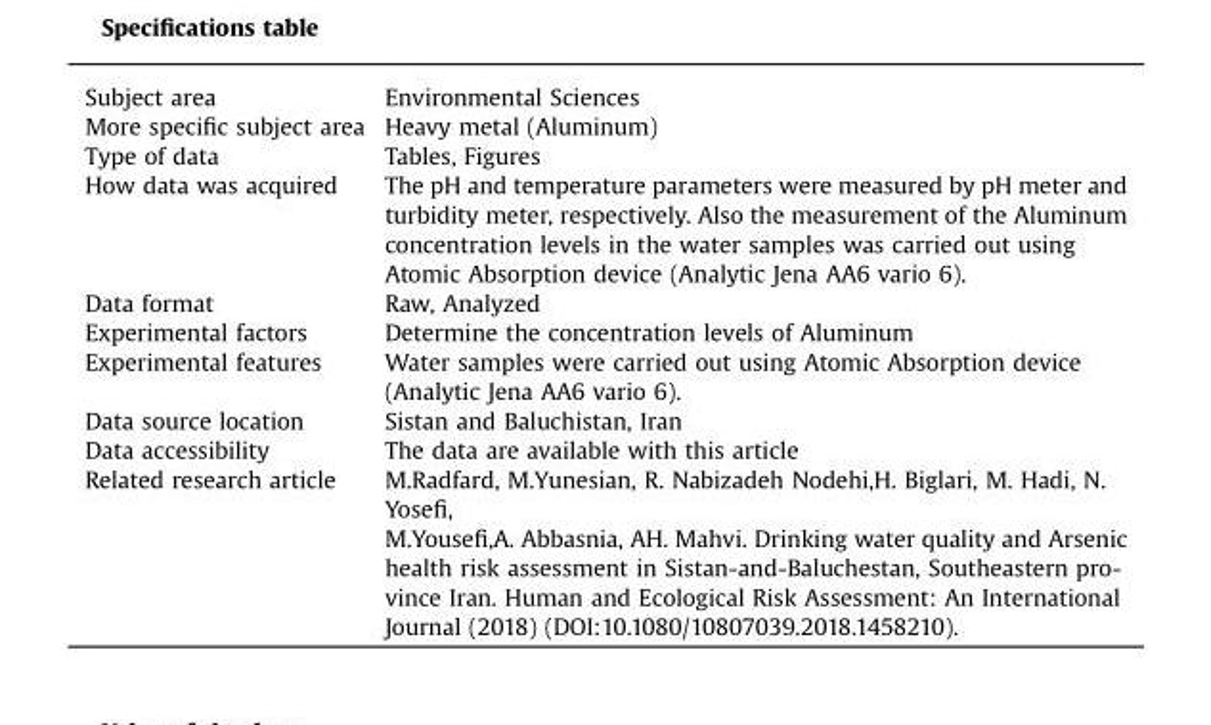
<table><tbody><tr><td>Subject area</td><td>Environmental Sciences</td></tr><tr><td>More specific subject area</td><td>Heavy metal (Aluminum)</td></tr><tr><td>Type of data</td><td>Tables, Figures</td></tr><tr><td>How data was acquired</td><td>The pH and temperature parameters were measured by pH meter and turbidity meter, respectively. Also the measurement of the Aluminum concentration levels in the water samples was carried out using Atomic Absorption device (Analytic Jena AA6 vario 6).</td></tr><tr><td>Data format</td><td>Raw, Analyzed</td></tr><tr><td>Experimental factors</td><td>Determine the concentration levels of Aluminum</td></tr><tr><td>Experimental features</td><td>Water samples were carried out using Atomic Absorption device (Analytic Jena AA6 vario 6).</td></tr><tr><td>Data source location</td><td>Sistan and Baluchistan, Iran</td></tr><tr><td>Data accessibility</td><td>The data are available with this article</td></tr><tr><td>Related research article</td><td>M.Radfard, M.Yunesian, R. Nabizadeh Nodehi,H. Biglari, M. Hadi, N. Yosefi, M.Yousefi,A. Abbasnia, AH. Mahvi. Drinking water quality and Arsenic health risk assessment in Sistan-and-Baluchestan, Southeastern pro- vince Iran. Human and Ecological Risk Assessment: An International Journal (2018) (DOI:10.1080/10807039.2018.1458210).</td></tr></tbody></table>